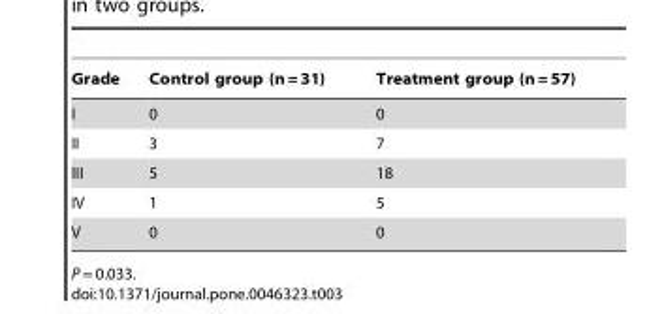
<table><thead><tr><td>Grade</td><td>Control group (n = 31)</td><td>Treatment group (n = 57)</td></tr></thead><tbody><tr><td>I</td><td>0</td><td>0</td></tr><tr><td>II</td><td>3</td><td>7</td></tr><tr><td>III</td><td>5</td><td>18</td></tr><tr><td>IV</td><td>1</td><td>5</td></tr><tr><td>V</td><td>0</td><td>0</td></tr></tbody></table>